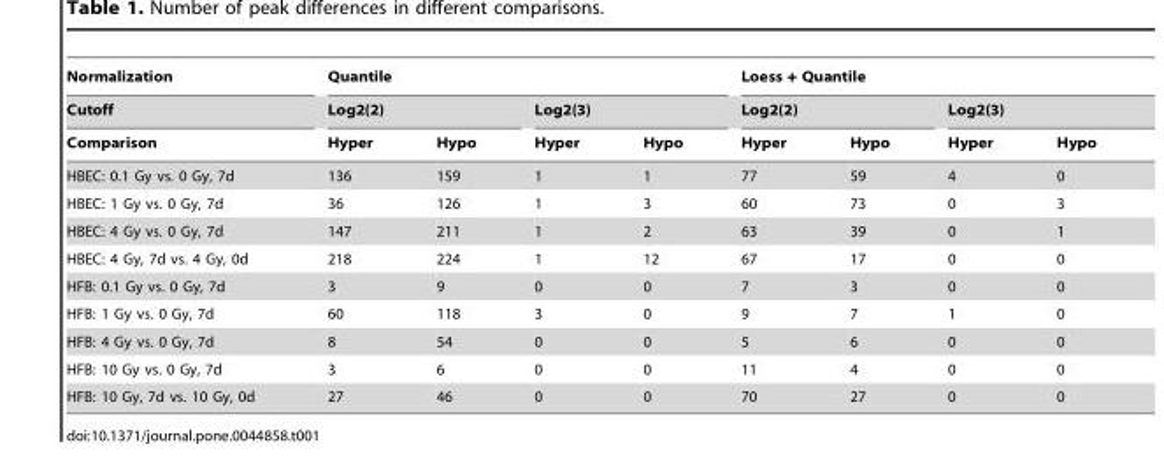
<table><thead><tr><td rowspan="3">Normalization Cutoff Comparison</td><td colspan="4">Quantile</td><td colspan="4">Loess + Quantile</td></tr><tr><td colspan="2">Log2(2)</td><td colspan="2">Log2(3)</td><td colspan="2">Log2(2)</td><td colspan="2">Log2(3)</td></tr><tr><td>Hyper</td><td>Hypo</td><td>Hyper</td><td>Hypo</td><td>Hyper</td><td>Hypo</td><td>Hyper</td><td>Hypo</td></tr></thead><tbody><tr><td>HBEC: 0.1 Gy vs. 0 Gy, 7d</td><td>136</td><td>159</td><td>1</td><td>1</td><td>77</td><td>59</td><td>4</td><td>0</td></tr><tr><td>HBEC: 1 Gy vs. 0 Gy, 7d</td><td>36</td><td>126</td><td>1</td><td>3</td><td>60</td><td>73</td><td>0</td><td>3</td></tr><tr><td>HBEC: 4 Gy vs. 0 Gy, 7d</td><td>147</td><td>211</td><td>1</td><td>2</td><td>63</td><td>39</td><td>0</td><td>1</td></tr><tr><td>HBEC: 4 Gy, 7d vs. 4 Gy, 0d</td><td>218</td><td>224</td><td>1</td><td>12</td><td>67</td><td>17</td><td>0</td><td>0</td></tr><tr><td>HFB: 0.1 Gy vs. 0 Gy, 7d</td><td>3</td><td>9</td><td>0</td><td>0</td><td>7</td><td>3</td><td>0</td><td>0</td></tr><tr><td>HFB: 1 Gy vs. 0 Gy, 7d</td><td>60</td><td>118</td><td>3</td><td>0</td><td>9</td><td>7</td><td>1</td><td>0</td></tr><tr><td>HFB: 4 Gy vs. 0 Gy, 7d</td><td>8</td><td>54</td><td>0</td><td>0</td><td>5</td><td>6</td><td>0</td><td>0</td></tr><tr><td>HFB: 10 Gy vs. 0 Gy, 7d</td><td>3</td><td>6</td><td>0</td><td>0</td><td>11</td><td>4</td><td>0</td><td>0</td></tr><tr><td>HFB: 10 Gy, 7d vs. 10 Gy, 0d</td><td>27</td><td>46</td><td>0</td><td>0</td><td>70</td><td>27</td><td>0</td><td>0</td></tr></tbody></table>